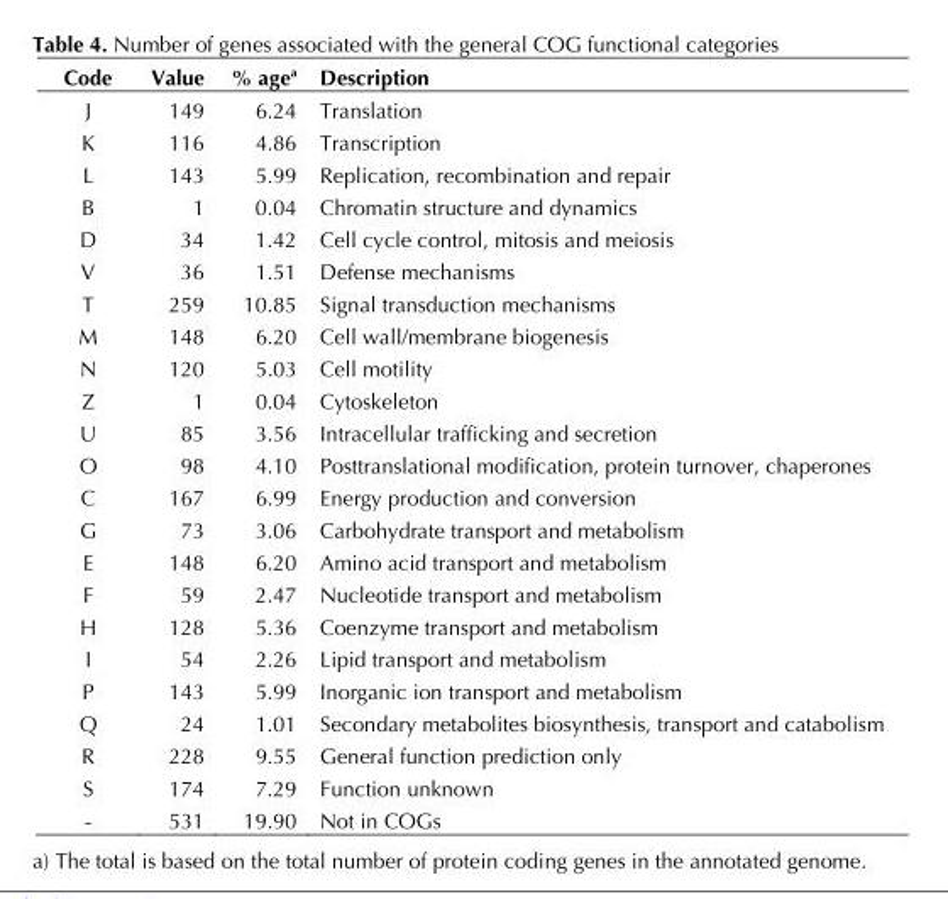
<table><thead><tr><td>Code</td><td>Value</td><td>% age<sup>a</sup></td><td>Description</td></tr></thead><tbody><tr><td>J</td><td>149</td><td>6.24</td><td>Translation</td></tr><tr><td>K</td><td>116</td><td>4.86</td><td>Transcription</td></tr><tr><td>L</td><td>143</td><td>5.99</td><td>Replication, recombination and repair</td></tr><tr><td>B</td><td>1</td><td>0.04</td><td>Chromatin structure and dynamics</td></tr><tr><td>D</td><td>34</td><td>1.42</td><td>Cell cycle control, mitosis and meiosis</td></tr><tr><td>V</td><td>36</td><td>1.51</td><td>Defense mechanisms</td></tr><tr><td>T</td><td>259</td><td>10.85</td><td>Signal transduction mechanisms</td></tr><tr><td>M</td><td>148</td><td>6.20</td><td>Cell wall/membrane biogenesis</td></tr><tr><td>N</td><td>120</td><td>5.03</td><td>Cell motility</td></tr><tr><td>Z</td><td>1</td><td>0.04</td><td>Cytoskeleton</td></tr><tr><td>U</td><td>85</td><td>3.56</td><td>Intracellular trafficking and secretion</td></tr><tr><td>O</td><td>98</td><td>4.10</td><td>Posttranslational modification, protein turnover, chaperones</td></tr><tr><td>C</td><td>167</td><td>6.99</td><td>Energy production and conversion</td></tr><tr><td>G</td><td>73</td><td>3.06</td><td>Carbohydrate transport and metabolism</td></tr><tr><td>E</td><td>148</td><td>6.20</td><td>Amino acid transport and metabolism</td></tr><tr><td>F</td><td>59</td><td>2.47</td><td>Nucleotide transport and metabolism</td></tr><tr><td>H</td><td>128</td><td>5.36</td><td>Coenzyme transport and metabolism</td></tr><tr><td>I</td><td>54</td><td>2.26</td><td>Lipid transport and metabolism</td></tr><tr><td>P</td><td>143</td><td>5.99</td><td>Inorganic ion transport and metabolism</td></tr><tr><td>Q</td><td>24</td><td>1.01</td><td>Secondary metabolites biosynthesis, transport and catabolism</td></tr><tr><td>R</td><td>228</td><td>9.55</td><td>General function prediction only</td></tr><tr><td>S</td><td>174</td><td>7.29</td><td>Function unknown</td></tr><tr><td>-</td><td>531</td><td>19.90</td><td>Not in COGs</td></tr></tbody></table>